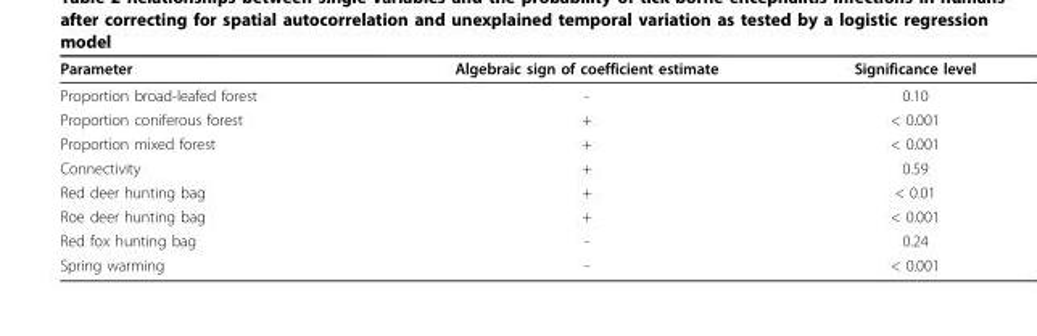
<table><thead><tr><td>Parameter</td><td>Algebraic sign of coefficient estimate</td><td>Significance level</td></tr></thead><tbody><tr><td>Proportion broad-leafed forest</td><td>-</td><td>0.10</td></tr><tr><td>Proportion coniferous forest</td><td>+</td><td>&lt; 0.001</td></tr><tr><td>Proportion mixed forest</td><td>+</td><td>&lt; 0.001</td></tr><tr><td>Connectivity</td><td>+</td><td>0.59</td></tr><tr><td>Red deer hunting bag</td><td>+</td><td>&lt; 0.01</td></tr><tr><td>Roe deer hunting bag</td><td>+</td><td>&lt; 0.001</td></tr><tr><td>Red fox hunting bag</td><td>-</td><td>0.24</td></tr><tr><td>Spring warming</td><td>-</td><td>&lt; 0.001</td></tr></tbody></table>